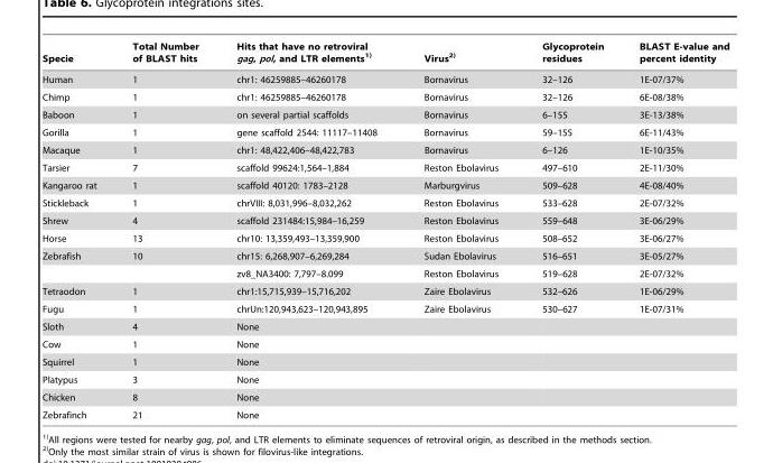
<table><thead><tr><td>Specie</td><td>Total Number of BLAST hits</td><td>Hits that have no retroviral gag, pol, and LTR elements1)</td><td>Virus2)</td><td>Glycoprotein residues</td><td>BLAST E-value and percent identity</td></tr></thead><tbody><tr><td>Human</td><td>1</td><td>chr1: 46259885–46260178</td><td>Bornavirus</td><td>32–126</td><td>1E-07/37%</td></tr><tr><td>Chimp</td><td>1</td><td>chr1: 46259885–46260178</td><td>Bornavirus</td><td>32–126</td><td>6E-08/38%</td></tr><tr><td>Baboon</td><td>1</td><td>on several partial scaffolds</td><td>Bornavirus</td><td>6–155</td><td>3E-13/38%</td></tr><tr><td>Gorilla</td><td>1</td><td>gene scaffold 2544: 11117–11408</td><td>Bornavirus</td><td>59–155</td><td>6E-11/43%</td></tr><tr><td>Macaque</td><td>1</td><td>chr1: 48,422,406–48,422,783</td><td>Bornavirus</td><td>6–126</td><td>1E-10/35%</td></tr><tr><td>Tarsier</td><td>7</td><td>scaffold 99624:1,564–1,884</td><td>Reston Ebolavirus</td><td>497–610</td><td>2E-11/30%</td></tr><tr><td>Kangaroo rat</td><td>1</td><td>scaffold 40120: 1783–2128</td><td>Marburgvirus</td><td>509–628</td><td>4E-08/40%</td></tr><tr><td>Stickleback</td><td>1</td><td>chrVIII: 8,031,996–8,032,262</td><td>Reston Ebolavirus</td><td>533–628</td><td>2E-07/32%</td></tr><tr><td>Shrew</td><td>4</td><td>scaffold 231484:15,984–16,259</td><td>Reston Ebolavirus</td><td>559–648</td><td>3E-06/29%</td></tr><tr><td>Horse</td><td>13</td><td>chr10: 13,359,493–13,359,900</td><td>Reston Ebolavirus</td><td>508–652</td><td>3E-06/27%</td></tr><tr><td rowspan="2">Zebrafish</td><td>10</td><td>chr15: 6,268,907–6,269,284</td><td>Sudan Ebolavirus</td><td>516–651</td><td>3E-05/27%</td></tr><tr><td></td><td>zv8_NA3400: 7,797–8.099</td><td>Reston Ebolavirus</td><td>519–628</td><td>2E-07/32%</td></tr><tr><td>Tetraodon</td><td>1</td><td>chr1:15,715,939–15,716,202</td><td>Zaire Ebolavirus</td><td>532–626</td><td>1E-06/29%</td></tr><tr><td>Fugu</td><td>1</td><td>chrUn:120,943,623–120,943,895</td><td>Zaire Ebolavirus</td><td>530–627</td><td>1E-07/31%</td></tr><tr><td>Sloth</td><td>4</td><td>None</td><td></td><td></td><td></td></tr><tr><td>Cow</td><td>1</td><td>None</td><td></td><td></td><td></td></tr><tr><td>Squirrel</td><td>1</td><td>None</td><td></td><td></td><td></td></tr><tr><td>Platypus</td><td>3</td><td>None</td><td></td><td></td><td></td></tr><tr><td>Chicken</td><td>8</td><td>None</td><td></td><td></td><td></td></tr><tr><td>Zebrafinch</td><td>21</td><td>None</td><td></td><td></td><td></td></tr></tbody></table>